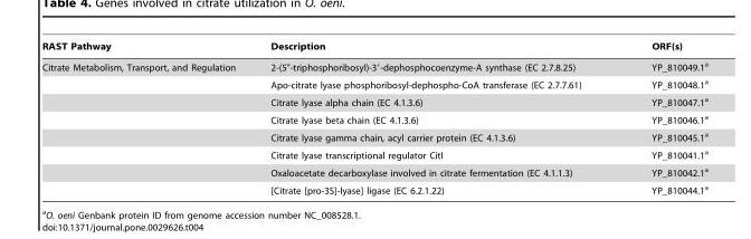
<table><thead><tr><td>RAST Pathway</td><td>Description</td><td>ORF(s)</td></tr></thead><tbody><tr><td rowspan="8">Citrate Metabolism, Transport, and Regulation</td><td>2-(5″-triphosphoribosyl)-3′-dephosphocoenzyme-A synthase (EC 2.7.8.25)</td><td>YP_810049.1<sup>a</sup></td></tr><tr><td>Apo-citrate lyase phosphoribosyl-dephospho-CoA transferase (EC 2.7.7.61)</td><td>YP_810048.1<sup>a</sup></td></tr><tr><td>Citrate lyase alpha chain (EC 4.1.3.6)</td><td>YP_810047.1<sup>a</sup></td></tr><tr><td>Citrate lyase beta chain (EC 4.1.3.6)</td><td>YP_810046.1<sup>a</sup></td></tr><tr><td>Citrate lyase gamma chain, acyl carrier protein (EC 4.1.3.6)</td><td>YP_810045.1<sup>a</sup></td></tr><tr><td>Citrate lyase transcriptional regulator CitI</td><td>YP_810041.1<sup>a</sup></td></tr><tr><td>Oxaloacetate decarboxylase involved in citrate fermentation (EC 4.1.1.3)</td><td>YP_810042.1<sup>a</sup></td></tr><tr><td>[Citrate [pro-3S]-lyase] ligase (EC 6.2.1.22)</td><td>YP_810044.1<sup>a</sup></td></tr></tbody></table>